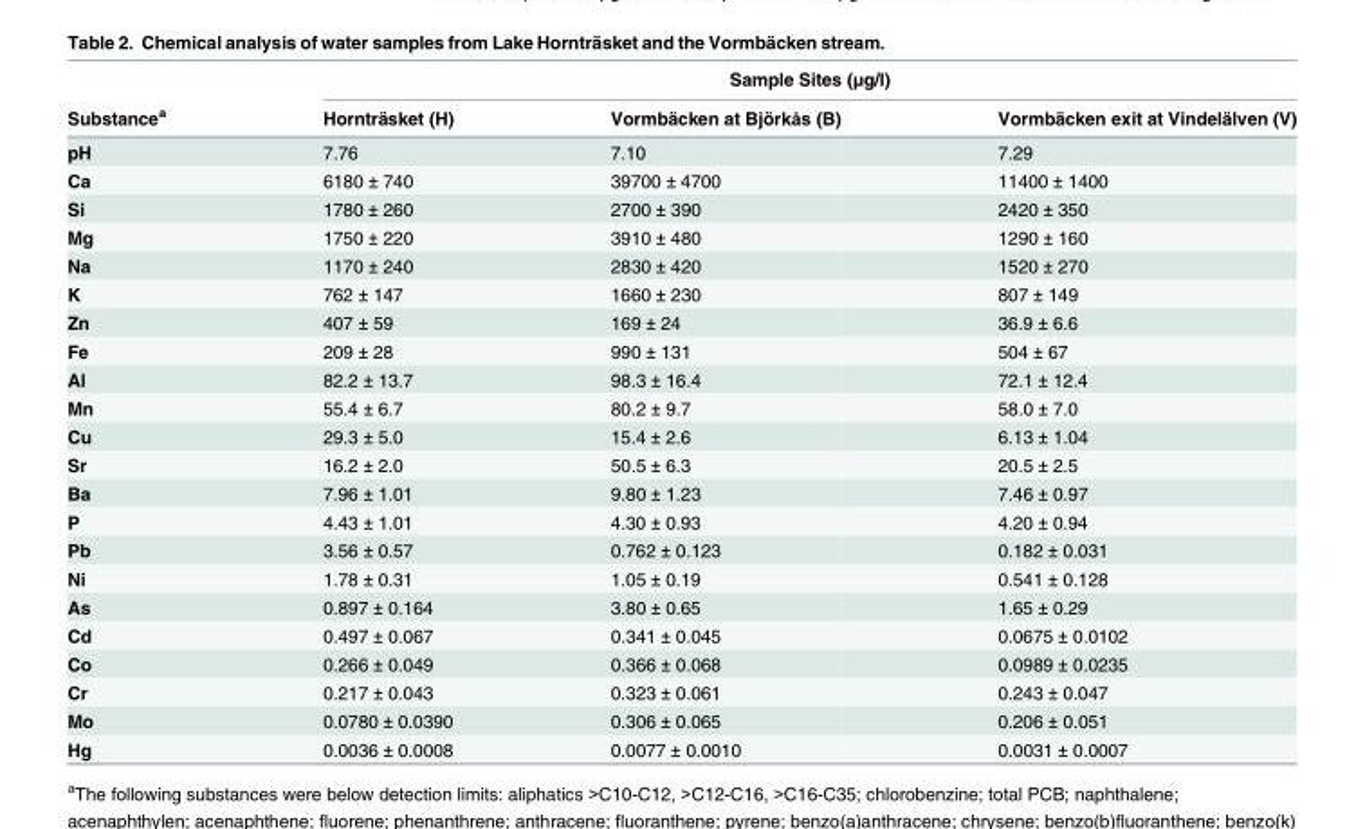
<table><thead><tr><td rowspan="2">Substance<sup>a</sup></td><td colspan="3">Sample Sites (μg/l)</td></tr><tr><td>Hornträsket (H)</td><td>Vormbäcken at Björkås (B)</td><td>Vormbäcken exit at Vindelälven (V)</td></tr></thead><tbody><tr><td>pH</td><td>7.76</td><td>7.10</td><td>7.29</td></tr><tr><td>Ca</td><td>6180 ± 740</td><td>39700 ± 4700</td><td>11400 ± 1400</td></tr><tr><td>Si</td><td>1780 ± 260</td><td>2700 ± 390</td><td>2420 ± 350</td></tr><tr><td>Mg</td><td>1750 ± 220</td><td>3910 ± 480</td><td>1290 ± 160</td></tr><tr><td>Na</td><td>1170 ± 240</td><td>2830 ± 420</td><td>1520 ± 270</td></tr><tr><td>K</td><td>762 ± 147</td><td>1660 ± 230</td><td>807 ± 149</td></tr><tr><td>Zn</td><td>407 ± 59</td><td>169 ± 24</td><td>36.9 ± 6.6</td></tr><tr><td>Fe</td><td>209 ± 28</td><td>990 ± 131</td><td>504 ± 67</td></tr><tr><td>Al</td><td>82.2 ± 13.7</td><td>98.3 ± 16.4</td><td>72.1 ± 12.4</td></tr><tr><td>Mn</td><td>55.4 ± 6.7</td><td>80.2 ± 9.7</td><td>58.0 ± 7.0</td></tr><tr><td>Cu</td><td>29.3 ± 5.0</td><td>15.4 ± 2.6</td><td>6.13 ± 1.04</td></tr><tr><td>Sr</td><td>16.2 ± 2.0</td><td>50.5 ± 6.3</td><td>20.5 ± 2.5</td></tr><tr><td>Ba</td><td>7.96 ± 1.01</td><td>9.80 ± 1.23</td><td>7.46 ± 0.97</td></tr><tr><td>P</td><td>4.43 ± 1.01</td><td>4.30 ± 0.93</td><td>4.20 ± 0.94</td></tr><tr><td>Pb</td><td>3.56 ± 0.57</td><td>0.762 ± 0.123</td><td>0.182 ± 0.031</td></tr><tr><td>Ni</td><td>1.78 ± 0.31</td><td>1.05 ± 0.19</td><td>0.541 ± 0.128</td></tr><tr><td>As</td><td>0.897 ± 0.164</td><td>3.80 ± 0.65</td><td>1.65 ± 0.29</td></tr><tr><td>Cd</td><td>0.497 ± 0.067</td><td>0.341 ± 0.045</td><td>0.0675 ± 0.0102</td></tr><tr><td>Co</td><td>0.266 ± 0.049</td><td>0.366 ± 0.068</td><td>0.0989 ± 0.0235</td></tr><tr><td>Cr</td><td>0.217 ± 0.043</td><td>0.323 ± 0.061</td><td>0.243 ± 0.047</td></tr><tr><td>Mo</td><td>0.0780 ± 0.0390</td><td>0.306 ± 0.065</td><td>0.206 ± 0.051</td></tr><tr><td>Hg</td><td>0.0036 ± 0.0008</td><td>0.0077 ± 0.0010</td><td>0.0031 ± 0.0007</td></tr></tbody></table>